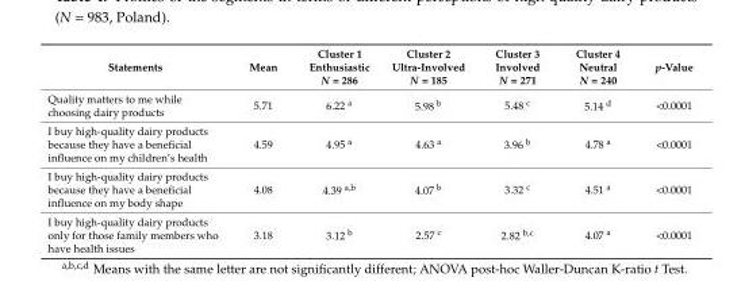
<table><thead><tr><td>Statements</td><td>Mean</td><td>Cluster 1 Enthusiastic N = 286</td><td>Cluster 2 Ultra-Involved N = 185</td><td>Cluster 3 Involved N = 271</td><td>Cluster 4 Neutral N = 240</td><td>p-Value</td></tr></thead><tbody><tr><td>Quality matters to me while choosing dairy products</td><td>5.71</td><td>6.22 <sup>a</sup></td><td>5.98 <sup>b</sup></td><td>5.48 <sup>c</sup></td><td>5.14 <sup>d</sup></td><td>&lt;0.0001</td></tr><tr><td>I buy high-quality dairy products because they have a beneficial influence on my children’s health</td><td>4.59</td><td>4.95 <sup>a</sup></td><td>4.63 <sup>a</sup></td><td>3.96 <sup>b</sup></td><td>4.78 <sup>a</sup></td><td>&lt;0.0001</td></tr><tr><td>I buy high-quality dairy products because they have a beneficial influence on my body shape</td><td>4.08</td><td>4.39 <sup>a,b</sup></td><td>4.07 <sup>b</sup></td><td>3.32 <sup>c</sup></td><td>4.51 <sup>a</sup></td><td>&lt;0.0001</td></tr><tr><td>I buy high-quality dairy products only for those family members who have health issues</td><td>3.18</td><td>3.12 <sup>b</sup></td><td>2.57 <sup>c</sup></td><td>2.82 <sup>b,c</sup></td><td>4.07 <sup>a</sup></td><td>&lt;0.0001</td></tr></tbody></table>